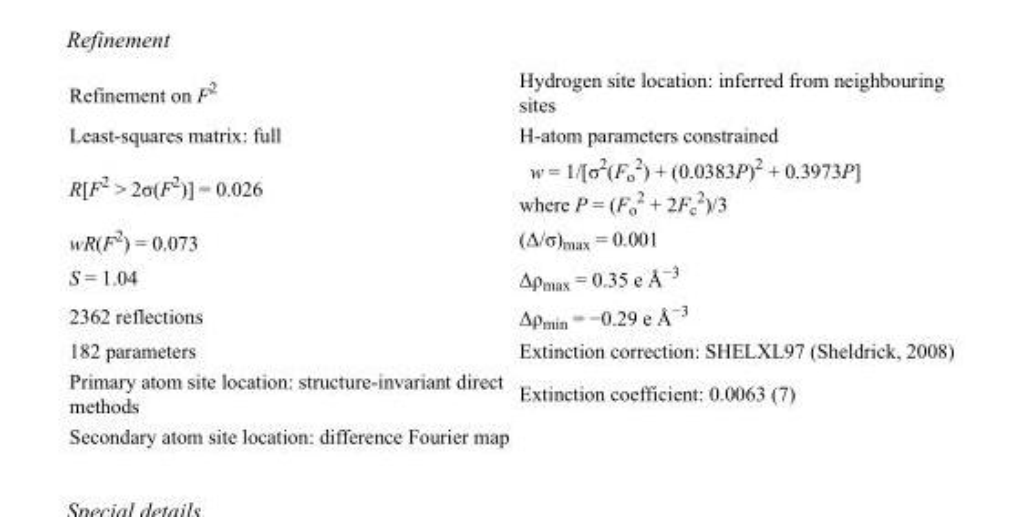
<table><tbody><tr><td>Refinement on F<sup>2</sup></td><td>Hydrogen site location: inferred from neighbouring sites</td></tr><tr><td>Least-squares matrix: full</td><td>H-atom parameters constrained</td></tr><tr><td>R[F<sup>2</sup> &gt; 2σ(F<sup>2</sup>)] = 0.026</td><td>w = 1/[σ<sup>2</sup>(F<sub>o</sub> <sup>2</sup>) + (0.0383P)<sup>2</sup> + 0.3973P] where P = (F<sub>o</sub> <sup>2</sup> + 2F<sub>c</sub> <sup>2</sup>)/3</td></tr><tr><td>wR(F<sup>2</sup>) = 0.073</td><td>(Δ/σ)<sub>max</sub> = 0.001</td></tr><tr><td>S = 1.04</td><td>Δρ<sub>max</sub> = 0.35 e Å<sup>−3</sup></td></tr><tr><td>2362 reflections</td><td>Δρ<sub>min</sub> = −0.29 e Å<sup>−3</sup></td></tr><tr><td>182 parameters</td><td>Extinction correction: SHELXL97 (Sheldrick, 2008)</td></tr><tr><td>Primary atom site location: structure-invariant direct methods</td><td>Extinction coefficient: 0.0063 (7)</td></tr><tr><td>Secondary atom site location: difference Fourier map</td><td></td></tr></tbody></table>